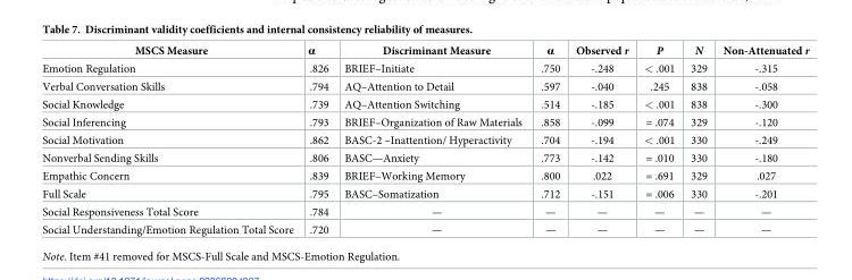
<table><thead><tr><td>MSCS Measure</td><td>α</td><td>Discriminant Measure</td><td>α</td><td>Observed r</td><td>P</td><td>N</td><td>Non-Attenuated r</td></tr></thead><tbody><tr><td>Emotion Regulation</td><td>.826</td><td>BRIEF–Initiate</td><td>.750</td><td>-.248</td><td>&lt; .001</td><td>329</td><td>-.315</td></tr><tr><td>Verbal Conversation Skills</td><td>.794</td><td>AQ–Attention to Detail</td><td>.597</td><td>-.040</td><td>.245</td><td>838</td><td>-.058</td></tr><tr><td>Social Knowledge</td><td>.739</td><td>AQ–Attention Switching</td><td>.514</td><td>-.185</td><td>&lt; .001</td><td>838</td><td>-.300</td></tr><tr><td>Social Inferencing</td><td>.793</td><td>BRIEF–Organization of Raw Materials</td><td>.858</td><td>-.099</td><td>= .074</td><td>329</td><td>-.120</td></tr><tr><td>Social Motivation</td><td>.862</td><td>BASC-2 –Inattention/ Hyperactivity</td><td>.704</td><td>-.194</td><td>&lt; .001</td><td>330</td><td>-.249</td></tr><tr><td>Nonverbal Sending Skills</td><td>.806</td><td>BASC—Anxiety</td><td>.773</td><td>-.142</td><td>= .010</td><td>330</td><td>-.180</td></tr><tr><td>Empathic Concern</td><td>.839</td><td>BRIEF–Working Memory</td><td>.800</td><td>.022</td><td>= .691</td><td>329</td><td>.027</td></tr><tr><td>Full Scale</td><td>.795</td><td>BASC–Somatization</td><td>.712</td><td>-.151</td><td>= .006</td><td>330</td><td>-.201</td></tr><tr><td>Social Responsiveness Total Score</td><td>.784</td><td>—</td><td>—</td><td>—</td><td>—</td><td>—</td><td>—</td></tr><tr><td>Social Understanding/Emotion Regulation Total Score</td><td>.720</td><td>—</td><td>—</td><td>—</td><td>—</td><td>—</td><td>—</td></tr></tbody></table>